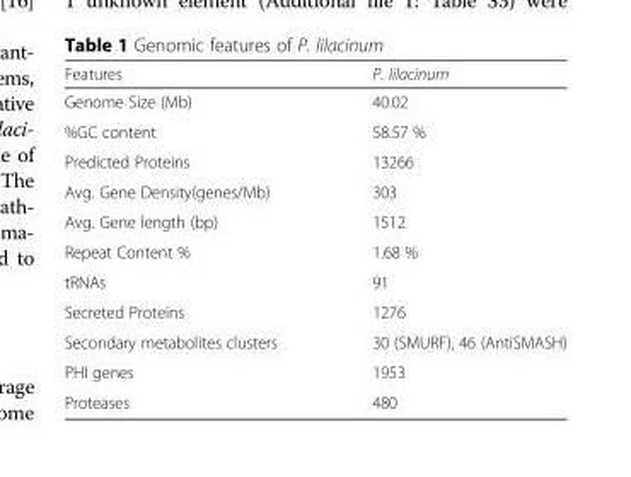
<table><thead><tr><td>Features</td><td>P. lilacinum</td></tr></thead><tbody><tr><td>Genome Size (Mb)</td><td>40.02</td></tr><tr><td>%GC content</td><td>58.57 %</td></tr><tr><td>Predicted Proteins</td><td>13266</td></tr><tr><td>Avg. Gene Density(genes/Mb)</td><td>303</td></tr><tr><td>Avg. Gene length (bp)</td><td>1512</td></tr><tr><td>Repeat Content %</td><td>1.68 %</td></tr><tr><td>tRNAs</td><td>91</td></tr><tr><td>Secreted Proteins</td><td>1276</td></tr><tr><td>Secondary metabolites clusters</td><td>30 (SMURF), 46 (AntiSMASH)</td></tr><tr><td>PHI genes</td><td>1953</td></tr><tr><td>Proteases</td><td>480</td></tr></tbody></table>